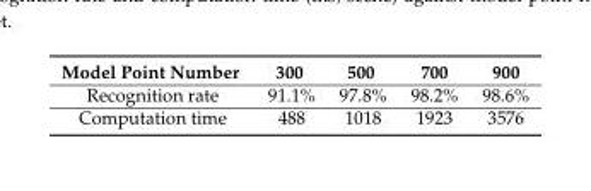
<table><thead><tr><td>Model Point Number</td><td>300</td><td>500</td><td>700</td><td>900</td></tr></thead><tbody><tr><td>Recognition rate</td><td>91.1%</td><td>97.8%</td><td>98.2%</td><td>98.6%</td></tr><tr><td>Computation time</td><td>488</td><td>1018</td><td>1923</td><td>3576</td></tr></tbody></table>